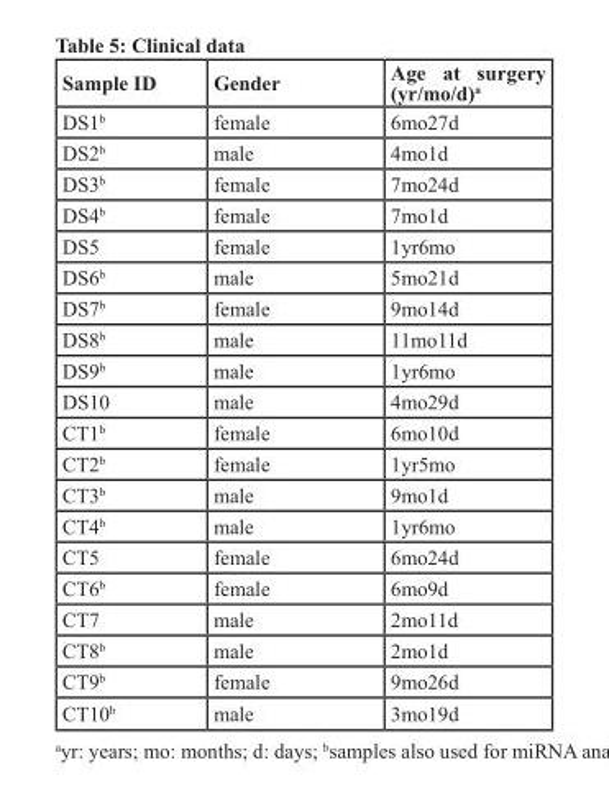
<table><thead><tr><td>Sample ID</td><td>Gender</td><td>Age at surgery (yr/mo/d)<sup>a</sup></td></tr></thead><tbody><tr><td>DS1<sup>b</sup></td><td>female</td><td>6mo27d</td></tr><tr><td>DS2<sup>b</sup></td><td>male</td><td>4mo1d</td></tr><tr><td>DS3<sup>b</sup></td><td>female</td><td>7mo24d</td></tr><tr><td>DS4<sup>b</sup></td><td>female</td><td>7mo1d</td></tr><tr><td>DS5</td><td>female</td><td>1yr6mo</td></tr><tr><td>DS6<sup>b</sup></td><td>male</td><td>5mo21d</td></tr><tr><td>DS7<sup>b</sup></td><td>female</td><td>9mo14d</td></tr><tr><td>DS8<sup>b</sup></td><td>male</td><td>11mo11d</td></tr><tr><td>DS9<sup>b</sup></td><td>male</td><td>1yr6mo</td></tr><tr><td>DS10</td><td>male</td><td>4mo29d</td></tr><tr><td>CT1<sup>b</sup></td><td>female</td><td>6mo10d</td></tr><tr><td>CT2<sup>b</sup></td><td>female</td><td>1yr5mo</td></tr><tr><td>CT3<sup>b</sup></td><td>male</td><td>9mo1d</td></tr><tr><td>CT4<sup>b</sup></td><td>male</td><td>1yr6mo</td></tr><tr><td>CT5</td><td>female</td><td>6mo24d</td></tr><tr><td>CT6<sup>b</sup></td><td>female</td><td>6mo9d</td></tr><tr><td>CT7</td><td>male</td><td>2mo11d</td></tr><tr><td>CT8<sup>b</sup></td><td>male</td><td>2mo1d</td></tr><tr><td>CT9<sup>b</sup></td><td>female</td><td>9mo26d</td></tr><tr><td>CT10<sup>b</sup></td><td>male</td><td>3mo19d</td></tr></tbody></table>